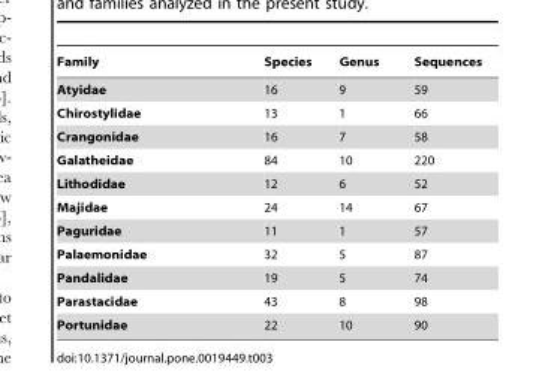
<table><thead><tr><td>Family</td><td>Species</td><td>Genus</td><td>Sequences</td></tr></thead><tbody><tr><td>Atyidae</td><td>16</td><td>9</td><td>59</td></tr><tr><td>Chirostylidae</td><td>13</td><td>1</td><td>66</td></tr><tr><td>Crangonidae</td><td>16</td><td>7</td><td>58</td></tr><tr><td>Galatheidae</td><td>84</td><td>10</td><td>220</td></tr><tr><td>Lithodidae</td><td>12</td><td>6</td><td>52</td></tr><tr><td>Majidae</td><td>24</td><td>14</td><td>67</td></tr><tr><td>Paguridae</td><td>11</td><td>1</td><td>57</td></tr><tr><td>Palaemonidae</td><td>32</td><td>5</td><td>87</td></tr><tr><td>Pandalidae</td><td>19</td><td>5</td><td>74</td></tr><tr><td>Parastacidae</td><td>43</td><td>8</td><td>98</td></tr><tr><td>Portunidae</td><td>22</td><td>10</td><td>90</td></tr></tbody></table>